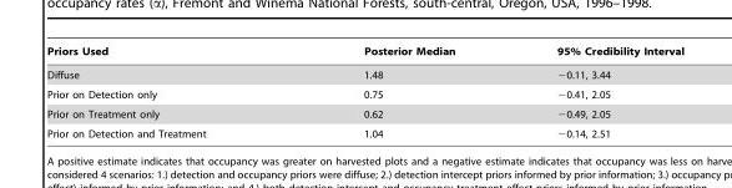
<table><thead><tr><td>Priors Used</td><td>Posterior Median</td><td>95% Credibility Interval</td></tr></thead><tbody><tr><td>Diffuse</td><td>1.48</td><td>−0.11, 3.44</td></tr><tr><td>Prior on Detection only</td><td>0.75</td><td>−0.41, 2.05</td></tr><tr><td>Prior on Treatment only</td><td>0.62</td><td>−0.49, 2.05</td></tr><tr><td>Prior on Detection and Treatment</td><td>1.04</td><td>−0.14, 2.51</td></tr></tbody></table>